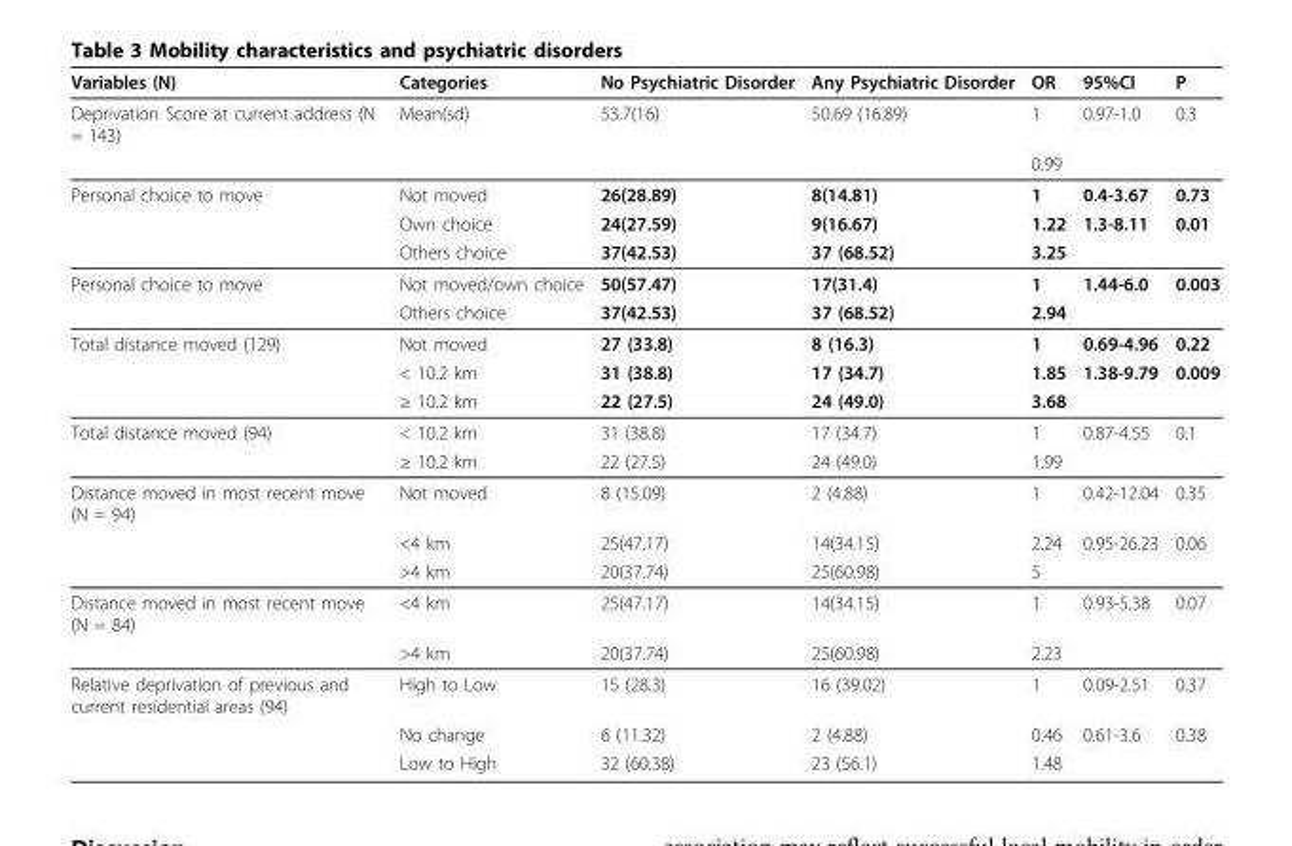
<table><thead><tr><td>Variables (N)</td><td>Categories</td><td>No Psychiatric Disorder</td><td>Any Psychiatric Disorder</td><td>OR</td><td>95%CI</td><td>P</td></tr></thead><tbody><tr><td rowspan="2">Deprivation Score at current address (N = 143)</td><td>Mean(sd)</td><td>53.7(16)</td><td>50.69 (16.89)</td><td>1</td><td>0.97-1.0</td><td>0.3</td></tr><tr><td></td><td></td><td></td><td>0.99</td><td></td><td></td></tr><tr><td rowspan="3">Personal choice to move</td><td>Not moved</td><td>26(28.89)</td><td>8(14.81)</td><td>1</td><td>0.4-3.67</td><td>0.73</td></tr><tr><td>Own choice</td><td>24(27.59)</td><td>9(16.67)</td><td>1.22</td><td>1.3-8.11</td><td>0.01</td></tr><tr><td>Others choice</td><td>37(42.53)</td><td>37 (68.52)</td><td>3.25</td><td></td><td></td></tr><tr><td rowspan="2">Personal choice to move</td><td>Not moved/own choice</td><td>50(57.47)</td><td>17(31.4)</td><td>1</td><td>1.44-6.0</td><td>0.003</td></tr><tr><td>Others choice</td><td>37(42.53)</td><td>37 (68.52)</td><td>2.94</td><td></td><td></td></tr><tr><td rowspan="3">Total distance moved (129)</td><td>Not moved</td><td>27 (33.8)</td><td>8 (16.3)</td><td>1</td><td>0.69-4.96</td><td>0.22</td></tr><tr><td>&lt; 10.2 km</td><td>31 (38.8)</td><td>17 (34.7)</td><td>1.85</td><td>1.38-9.79</td><td>0.009</td></tr><tr><td>≥ 10.2 km</td><td>22 (27.5)</td><td>24 (49.0)</td><td>3.68</td><td></td><td></td></tr><tr><td rowspan="2">Total distance moved (94)</td><td>&lt; 10.2 km</td><td>31 (38.8)</td><td>17 (34.7)</td><td>1</td><td>0.87-4.55</td><td>0.1</td></tr><tr><td>≥ 10.2 km</td><td>22 (27.5)</td><td>24 (49.0)</td><td>1.99</td><td></td><td></td></tr><tr><td rowspan="3">Distance moved in most recent move (N = 94)</td><td>Not moved</td><td>8 (15.09)</td><td>2 (4.88)</td><td>1</td><td>0.42-12.04</td><td>0.35</td></tr><tr><td>&lt;4 km</td><td>25(47.17)</td><td>14(34.15)</td><td>2.24</td><td>0.95-26.23</td><td>0.06</td></tr><tr><td>&gt;4 km</td><td>20(37.74)</td><td>25(60.98)</td><td>5</td><td></td><td></td></tr><tr><td rowspan="2">Distance moved in most recent move (N = 84)</td><td>&lt;4 km</td><td>25(47.17)</td><td>14(34.15)</td><td>1</td><td>0.93-5.38</td><td>0.07</td></tr><tr><td>&gt;4 km</td><td>20(37.74)</td><td>25(60.98)</td><td>2.23</td><td></td><td></td></tr><tr><td rowspan="3">Relative deprivation of previous and current residential areas (94)</td><td>High to Low</td><td>15 (28.3)</td><td>16 (39.02)</td><td>1</td><td>0.09-2.51</td><td>0.37</td></tr><tr><td>No change</td><td>6 (11.32)</td><td>2 (4.88)</td><td>0.46</td><td>0.61-3.6</td><td>0.38</td></tr><tr><td>Low to High</td><td>32 (60.38)</td><td>23 (56.1)</td><td>1.48</td><td></td><td></td></tr></tbody></table>